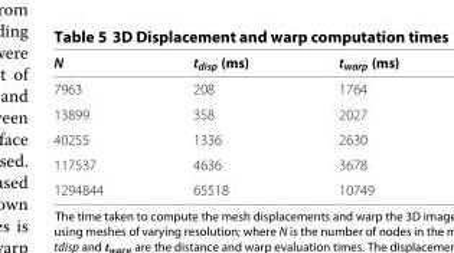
<table><thead><tr><td>N</td><td>t<sub>disp</sub> (ms)</td><td>t<sub>warp</sub> (ms)</td></tr></thead><tbody><tr><td>7963</td><td>208</td><td>1764</td></tr><tr><td>13899</td><td>358</td><td>2027</td></tr><tr><td>40255</td><td>1336</td><td>2630</td></tr><tr><td>117537</td><td>4636</td><td>3678</td></tr><tr><td>1294844</td><td>65518</td><td>10749</td></tr></tbody></table>